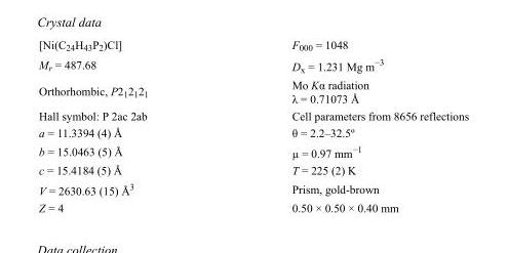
<table><tbody><tr><td>[Ni(C<sub>24</sub>H<sub>43</sub>P<sub>2</sub>)Cl]</td><td>F000 = 1048</td></tr><tr><td>M<sub>r</sub> = 487.68</td><td>D<sub>x</sub> = 1.231 Mg m<sup>−3</sup></td></tr><tr><td>Orthorhombic, P2<sub>1</sub>2<sub>1</sub>2<sub>1</sub></td><td>Mo Kα radiation λ = 0.71073 Å</td></tr><tr><td>Hall symbol: P 2ac 2ab</td><td>Cell parameters from 8656 reflections</td></tr><tr><td>a = 11.3394 (4) Å</td><td>θ = 2.2–32.5º</td></tr><tr><td>b = 15.0463 (5) Å</td><td>µ = 0.97 mm<sup>−1</sup></td></tr><tr><td>c = 15.4184 (5) Å</td><td>T = 225 (2) K</td></tr><tr><td>V = 2630.63 (15) Å<sup>3</sup></td><td>Prism, gold-brown</td></tr><tr><td>Z = 4</td><td>0.50 × 0.50 × 0.40 mm</td></tr></tbody></table>